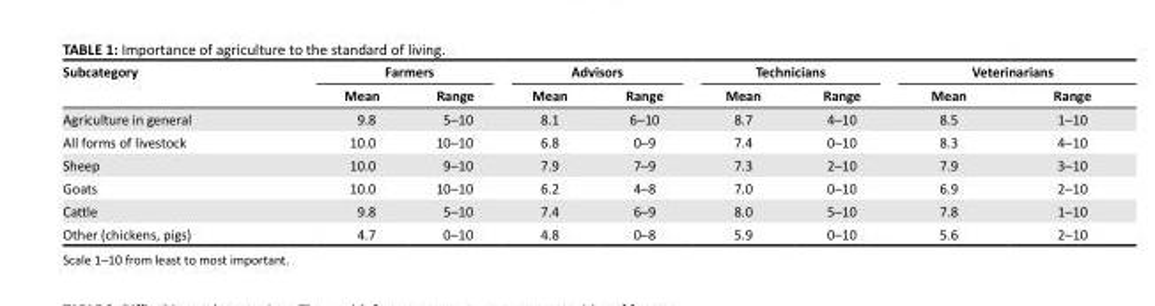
<table><thead><tr><td rowspan="2">Subcategory</td><td colspan="2">Farmers</td><td colspan="2">Advisors</td><td colspan="2">Technicians</td><td colspan="2">Veterinarians</td></tr><tr><td>Mean</td><td>Range</td><td>Mean</td><td>Range</td><td>Mean</td><td>Range</td><td>Mean</td><td>Range</td></tr></thead><tbody><tr><td>Agriculture in general</td><td>9.8</td><td>5–10</td><td>8.1</td><td>6–10</td><td>8.7</td><td>4–10</td><td>8.5</td><td>1–10</td></tr><tr><td>All forms of livestock</td><td>10.0</td><td>10–10</td><td>6.8</td><td>0–9</td><td>7.4</td><td>0–10</td><td>8.3</td><td>4–10</td></tr><tr><td>Sheep</td><td>10.0</td><td>9–10</td><td>7.9</td><td>7–9</td><td>7.3</td><td>2–10</td><td>7.9</td><td>3–10</td></tr><tr><td>Goats</td><td>10.0</td><td>10–10</td><td>6.2</td><td>4–8</td><td>7.0</td><td>0–10</td><td>6.9</td><td>2–10</td></tr><tr><td>Cattle</td><td>9.8</td><td>5–10</td><td>7.4</td><td>6–9</td><td>8.0</td><td>5–10</td><td>7.8</td><td>1–10</td></tr><tr><td>Other (chickens, pigs)</td><td>4.7</td><td>0–10</td><td>4.8</td><td>0–8</td><td>5.9</td><td>0–10</td><td>5.6</td><td>2–10</td></tr></tbody></table>